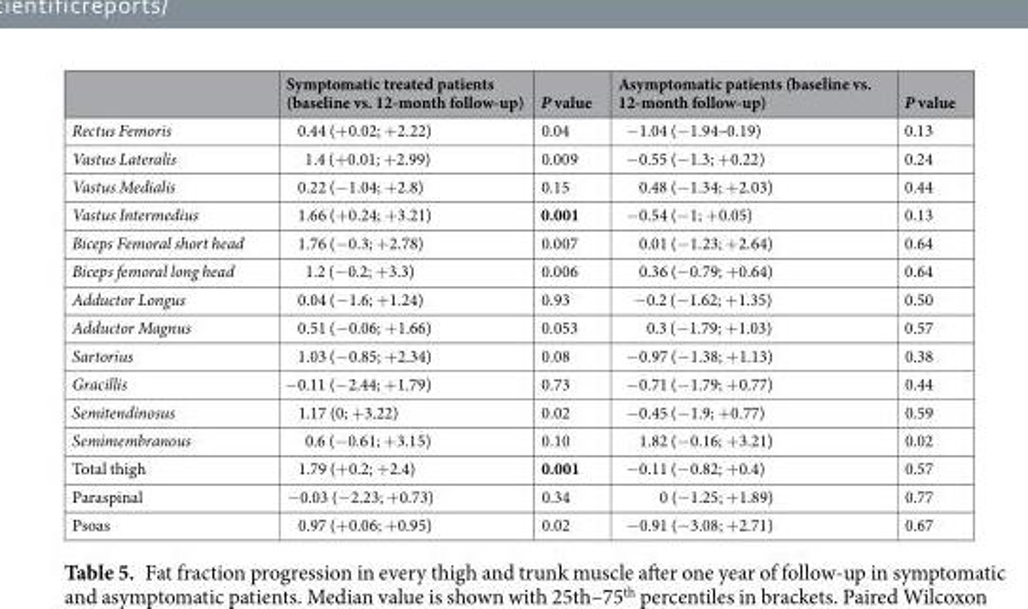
<table><thead><tr><td></td><td>Symptomatic treated patients (baseline vs. 12-month follow-up)</td><td>P value</td><td>Asymptomatic patients (baseline vs. 12-month follow-up)</td><td>P value</td></tr></thead><tbody><tr><td>Rectus Femoris</td><td>0.44 (+0.02; +2.22)</td><td>0.04</td><td>−1.04 (−1.94–0.19)</td><td>0.13</td></tr><tr><td>Vastus Lateralis</td><td>1.4 (+0.01; +2.99)</td><td>0.009</td><td>−0.55 (−1.3; +0.22)</td><td>0.24</td></tr><tr><td>Vastus Medialis</td><td>0.22 (−1.04; +2.8)</td><td>0.15</td><td>0.48 (−1.34; +2.03)</td><td>0.44</td></tr><tr><td>Vastus Intermedius</td><td>1.66 (+0.24; +3.21)</td><td>0.001</td><td>−0.54 (−1; +0.05)</td><td>0.13</td></tr><tr><td>Biceps Femoral short head</td><td>1.76 (−0.3; +2.78)</td><td>0.007</td><td>0.01 (−1.23; +2.64)</td><td>0.64</td></tr><tr><td>Biceps femoral long head</td><td>1.2 (−0.2; +3.3)</td><td>0.006</td><td>0.36 (−0.79; +0.64)</td><td>0.64</td></tr><tr><td>Adductor Longus</td><td>0.04 (−1.6; +1.24)</td><td>0.93</td><td>−0.2 (−1.62; +1.35)</td><td>0.50</td></tr><tr><td>Adductor Magnus</td><td>0.51 (−0.06; +1.66)</td><td>0.053</td><td>0.3 (−1.79; +1.03)</td><td>0.57</td></tr><tr><td>Sartorius</td><td>1.03 (−0.85; +2.34)</td><td>0.08</td><td>−0.97 (−1.38; +1.13)</td><td>0.38</td></tr><tr><td>Gracillis</td><td>−0.11 (−2.44; +1.79)</td><td>0.73</td><td>−0.71 (−1.79; +0.77)</td><td>0.44</td></tr><tr><td>Semitendinosus</td><td>1.17 (0; +3.22)</td><td>0.02</td><td>−0.45 (−1.9; +0.77)</td><td>0.59</td></tr><tr><td>Semimembranous</td><td>0.6 (−0.61; +3.15)</td><td>0.10</td><td>1.82 (−0.16; +3.21)</td><td>0.02</td></tr><tr><td>Total thigh</td><td>1.79 (+0.2; +2.4)</td><td>0.001</td><td>−0.11 (−0.82; +0.4)</td><td>0.57</td></tr><tr><td>Paraspinal</td><td>−0.03 (−2.23; +0.73)</td><td>0.34</td><td>0 (−1.25; +1.89)</td><td>0.77</td></tr><tr><td>Psoas</td><td>0.97 (+0.06; +0.95)</td><td>0.02</td><td>−0.91 (−3.08; +2.71)</td><td>0.67</td></tr></tbody></table>